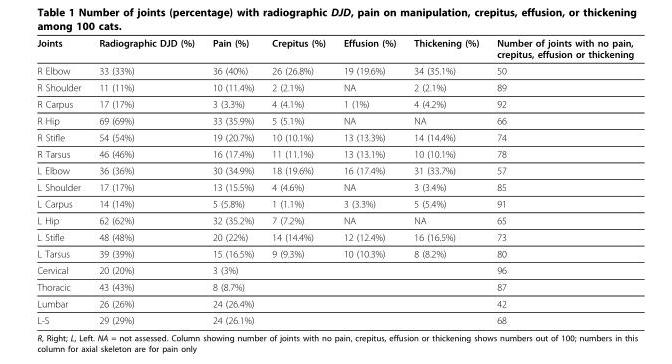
<table><thead><tr><td>Joints</td><td>Radiographic DJD (%)</td><td>Pain (%)</td><td>Crepitus (%)</td><td>Effusion (%)</td><td>Thickening (%)</td><td>Number of joints with no pain, crepitus, effusion or thickening</td></tr></thead><tbody><tr><td>R Elbow</td><td>33 (33%)</td><td>36 (40%)</td><td>26 (26.8%)</td><td>19 (19.6%)</td><td>34 (35.1%)</td><td>50</td></tr><tr><td>R Shoulder</td><td>11 (11%)</td><td>10 (11.4%)</td><td>2 (2.1%)</td><td>NA</td><td>2 (2.1%)</td><td>89</td></tr><tr><td>R Carpus</td><td>17 (17%)</td><td>3 (3.3%)</td><td>4 (4.1%)</td><td>1 (1%)</td><td>4 (4.2%)</td><td>92</td></tr><tr><td>R Hip</td><td>69 (69%)</td><td>33 (35.9%)</td><td>5 (5.1%)</td><td>NA</td><td>NA</td><td>66</td></tr><tr><td>R Stifle</td><td>54 (54%)</td><td>19 (20.7%)</td><td>10 (10.1%)</td><td>13 (13.3%)</td><td>14 (14.4%)</td><td>74</td></tr><tr><td>R Tarsus</td><td>46 (46%)</td><td>16 (17.4%)</td><td>11 (11.1%)</td><td>13 (13.1%)</td><td>10 (10.1%)</td><td>78</td></tr><tr><td>L Elbow</td><td>36 (36%)</td><td>30 (34.9%)</td><td>18 (19.6%)</td><td>16 (17.4%)</td><td>31 (33.7%)</td><td>57</td></tr><tr><td>L Shoulder</td><td>17 (17%)</td><td>13 (15.5%)</td><td>4 (4.6%)</td><td>NA</td><td>3 (3.4%)</td><td>85</td></tr><tr><td>L Carpus</td><td>14 (14%)</td><td>5 (5.8%)</td><td>1 (1.1%)</td><td>3 (3.3%)</td><td>5 (5.4%)</td><td>91</td></tr><tr><td>L Hip</td><td>62 (62%)</td><td>32 (35.2%)</td><td>7 (7.2%)</td><td>NA</td><td>NA</td><td>65</td></tr><tr><td>L Stifle</td><td>48 (48%)</td><td>20 (22%)</td><td>14 (14.4%)</td><td>12 (12.4%)</td><td>16 (16.5%)</td><td>73</td></tr><tr><td>L Tarsus</td><td>39 (39%)</td><td>15 (16.5%)</td><td>9 (9.3%)</td><td>10 (10.3%)</td><td>8 (8.2%)</td><td>80</td></tr><tr><td>Cervical</td><td>20 (20%)</td><td>3 (3%)</td><td></td><td></td><td></td><td>96</td></tr><tr><td>Thoracic</td><td>43 (43%)</td><td>8 (8.7%)</td><td></td><td></td><td></td><td>87</td></tr><tr><td>Lumbar</td><td>26 (26%)</td><td>24 (26.4%)</td><td></td><td></td><td></td><td>42</td></tr><tr><td>L-S</td><td>29 (29%)</td><td>24 (26.1%)</td><td></td><td></td><td></td><td>68</td></tr></tbody></table>